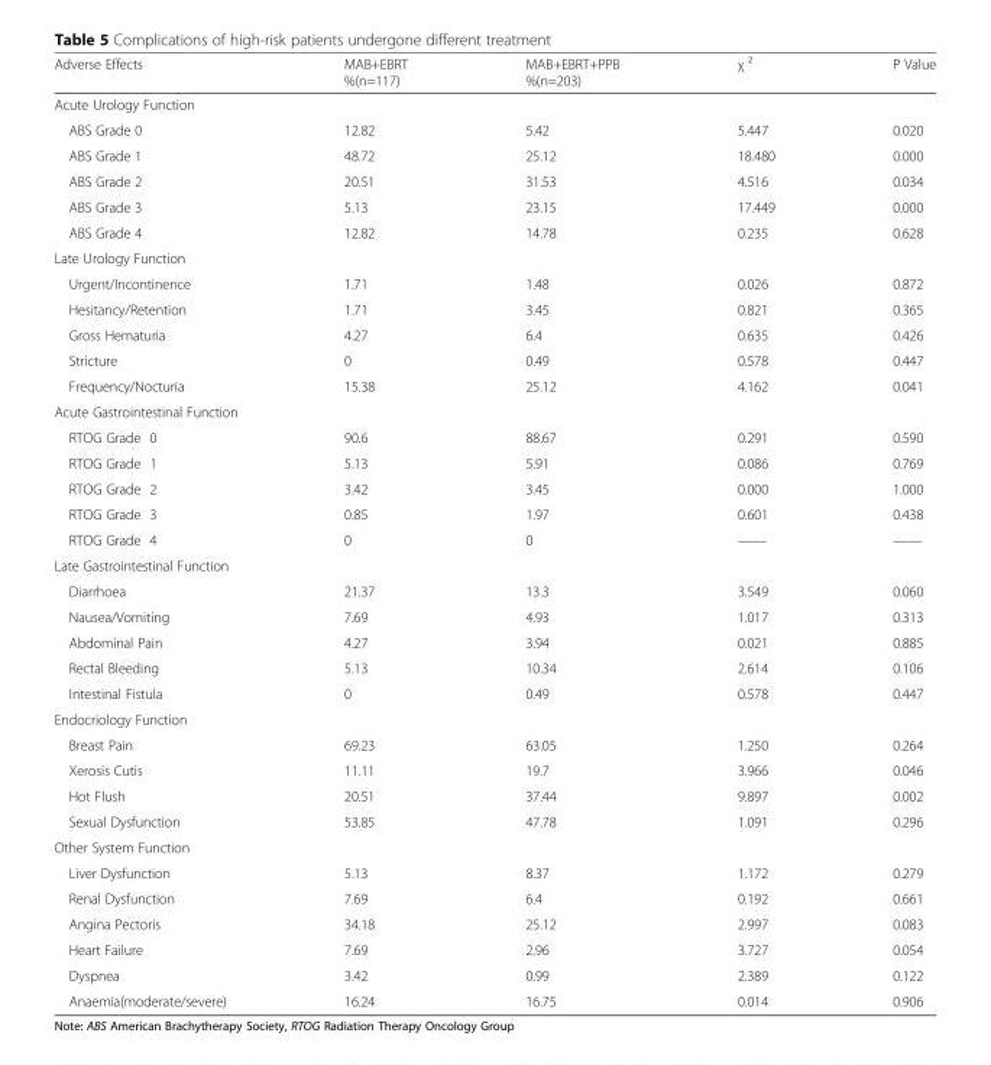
<table><thead><tr><td>Adverse Effects</td><td>MAB+EBRT %(n=117)</td><td>MAB+EBRT+PPB %(n=203)</td><td>χ ²</td><td>P Value</td></tr></thead><tbody><tr><td colspan="5">Acute Urology Function</td></tr><tr><td>ABS Grade 0</td><td>12.82</td><td>5.42</td><td>5.447</td><td>0.020</td></tr><tr><td>ABS Grade 1</td><td>48.72</td><td>25.12</td><td>18.480</td><td>0.000</td></tr><tr><td>ABS Grade 2</td><td>20.51</td><td>31.53</td><td>4.516</td><td>0.034</td></tr><tr><td>ABS Grade 3</td><td>5.13</td><td>23.15</td><td>17.449</td><td>0.000</td></tr><tr><td>ABS Grade 4</td><td>12.82</td><td>14.78</td><td>0.235</td><td>0.628</td></tr><tr><td colspan="5">Late Urology Function</td></tr><tr><td>Urgent/Incontinence</td><td>1.71</td><td>1.48</td><td>0.026</td><td>0.872</td></tr><tr><td>Hesitancy/Retention</td><td>1.71</td><td>3.45</td><td>0.821</td><td>0.365</td></tr><tr><td>Gross Hematuria</td><td>4.27</td><td>6.4</td><td>0.635</td><td>0.426</td></tr><tr><td>Stricture</td><td>0</td><td>0.49</td><td>0.578</td><td>0.447</td></tr><tr><td>Frequency/Nocturia</td><td>15.38</td><td>25.12</td><td>4.162</td><td>0.041</td></tr><tr><td colspan="5">Acute Gastrointestinal Function</td></tr><tr><td>RTOG Grade 0</td><td>90.6</td><td>88.67</td><td>0.291</td><td>0.590</td></tr><tr><td>RTOG Grade 1</td><td>5.13</td><td>5.91</td><td>0.086</td><td>0.769</td></tr><tr><td>RTOG Grade 2</td><td>3.42</td><td>3.45</td><td>0.000</td><td>1.000</td></tr><tr><td>RTOG Grade 3</td><td>0.85</td><td>1.97</td><td>0.601</td><td>0.438</td></tr><tr><td>RTOG Grade 4</td><td>0</td><td>0</td><td>——</td><td>——</td></tr><tr><td colspan="5">Late Gastrointestinal Function</td></tr><tr><td>Diarrhoea</td><td>21.37</td><td>13.3</td><td>3.549</td><td>0.060</td></tr><tr><td>Nausea/Vomiting</td><td>7.69</td><td>4.93</td><td>1.017</td><td>0.313</td></tr><tr><td>Abdominal Pain</td><td>4.27</td><td>3.94</td><td>0.021</td><td>0.885</td></tr><tr><td>Rectal Bleeding</td><td>5.13</td><td>10.34</td><td>2.614</td><td>0.106</td></tr><tr><td>Intestinal Fistula</td><td>0</td><td>0.49</td><td>0.578</td><td>0.447</td></tr><tr><td colspan="5">Endocriology Function</td></tr><tr><td>Breast Pain</td><td>69.23</td><td>63.05</td><td>1.250</td><td>0.264</td></tr><tr><td>Xerosis Cutis</td><td>11.11</td><td>19.7</td><td>3.966</td><td>0.046</td></tr><tr><td>Hot Flush</td><td>20.51</td><td>37.44</td><td>9.897</td><td>0.002</td></tr><tr><td>Sexual Dysfunction</td><td>53.85</td><td>47.78</td><td>1.091</td><td>0.296</td></tr><tr><td colspan="5">Other System Function</td></tr><tr><td>Liver Dysfunction</td><td>5.13</td><td>8.37</td><td>1.172</td><td>0.279</td></tr><tr><td>Renal Dysfunction</td><td>7.69</td><td>6.4</td><td>0.192</td><td>0.661</td></tr><tr><td>Angina Pectoris</td><td>34.18</td><td>25.12</td><td>2.997</td><td>0.083</td></tr><tr><td>Heart Failure</td><td>7.69</td><td>2.96</td><td>3.727</td><td>0.054</td></tr><tr><td>Dyspnea</td><td>3.42</td><td>0.99</td><td>2.389</td><td>0.122</td></tr><tr><td>Anaemia(moderate/severe)</td><td>16.24</td><td>16.75</td><td>0.014</td><td>0.906</td></tr></tbody></table>